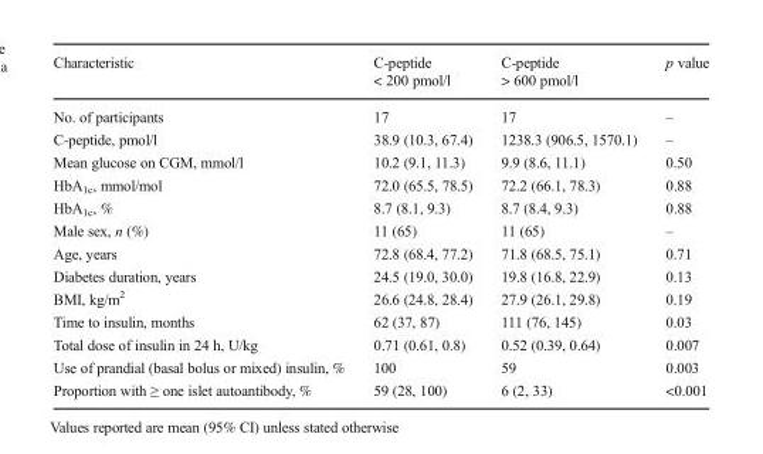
<table><thead><tr><td>Characteristic</td><td>C-peptide &lt; 200 pmol/l</td><td>C-peptide &gt; 600 pmol/l</td><td>p value</td></tr></thead><tbody><tr><td>No. of participants</td><td>17</td><td>17</td><td>–</td></tr><tr><td>C-peptide, pmol/l</td><td>38.9 (10.3, 67.4)</td><td>1238.3 (906.5, 1570.1)</td><td>–</td></tr><tr><td>Mean glucose on CGM, mmol/l</td><td>10.2 (9.1, 11.3)</td><td>9.9 (8.6, 11.1)</td><td>0.50</td></tr><tr><td>HbA<sub>1c</sub>, mmol/mol</td><td>72.0 (65.5, 78.5)</td><td>72.2 (66.1, 78.3)</td><td>0.88</td></tr><tr><td>HbA<sub>1c</sub>, %</td><td>8.7 (8.1, 9.3)</td><td>8.7 (8.4, 9.3)</td><td>0.88</td></tr><tr><td>Male sex, n (%)</td><td>11 (65)</td><td>11 (65)</td><td>–</td></tr><tr><td>Age, years</td><td>72.8 (68.4, 77.2)</td><td>71.8 (68.5, 75.1)</td><td>0.71</td></tr><tr><td>Diabetes duration, years</td><td>24.5 (19.0, 30.0)</td><td>19.8 (16.8, 22.9)</td><td>0.13</td></tr><tr><td>BMI, kg/m<sup>2</sup></td><td>26.6 (24.8, 28.4)</td><td>27.9 (26.1, 29.8)</td><td>0.19</td></tr><tr><td>Time to insulin, months</td><td>62 (37, 87)</td><td>111 (76, 145)</td><td>0.03</td></tr><tr><td>Total dose of insulin in 24 h, U/kg</td><td>0.71 (0.61, 0.8)</td><td>0.52 (0.39, 0.64)</td><td>0.007</td></tr><tr><td>Use of prandial (basal bolus or mixed) insulin, %</td><td>100</td><td>59</td><td>0.003</td></tr><tr><td>Proportion with ≥ one islet autoantibody, %</td><td>59 (28, 100)</td><td>6 (2, 33)</td><td>&lt;0.001</td></tr></tbody></table>